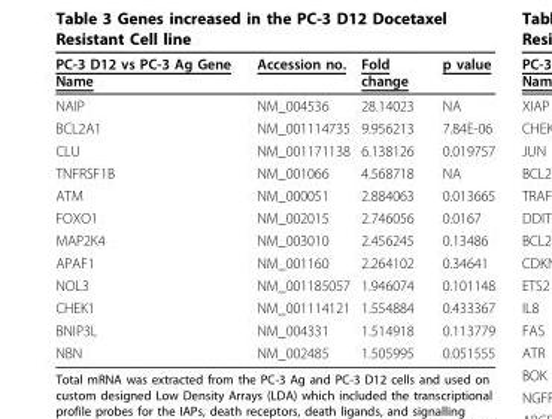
<table><thead><tr><td>PC-3 D12 vs PC-3 Ag Gene Name</td><td>Accession no.</td><td>Fold change</td><td>p value</td></tr></thead><tbody><tr><td>NAIP</td><td>NM_004536</td><td>28.14023</td><td>NA</td></tr><tr><td>BCL2A1</td><td>NM_001114735</td><td>9.956213</td><td>7.84E-06</td></tr><tr><td>CLU</td><td>NM_001171138</td><td>6.138126</td><td>0.019757</td></tr><tr><td>TNFRSF1B</td><td>NM_001066</td><td>4.568718</td><td>NA</td></tr><tr><td>ATM</td><td>NM_000051</td><td>2.884063</td><td>0.013665</td></tr><tr><td>FOXO1</td><td>NM_002015</td><td>2.746056</td><td>0.0167</td></tr><tr><td>MAP2K4</td><td>NM_003010</td><td>2.456245</td><td>0.13486</td></tr><tr><td>APAF1</td><td>NM_001160</td><td>2.264102</td><td>0.34641</td></tr><tr><td>NOL3</td><td>NM_001185057</td><td>1.946074</td><td>0.101148</td></tr><tr><td>CHEK1</td><td>NM_001114121</td><td>1.554884</td><td>0.433367</td></tr><tr><td>BNIP3L</td><td>NM_004331</td><td>1.514918</td><td>0.113779</td></tr><tr><td>NBN</td><td>NM_002485</td><td>1.505995</td><td>0.051555</td></tr></tbody></table>